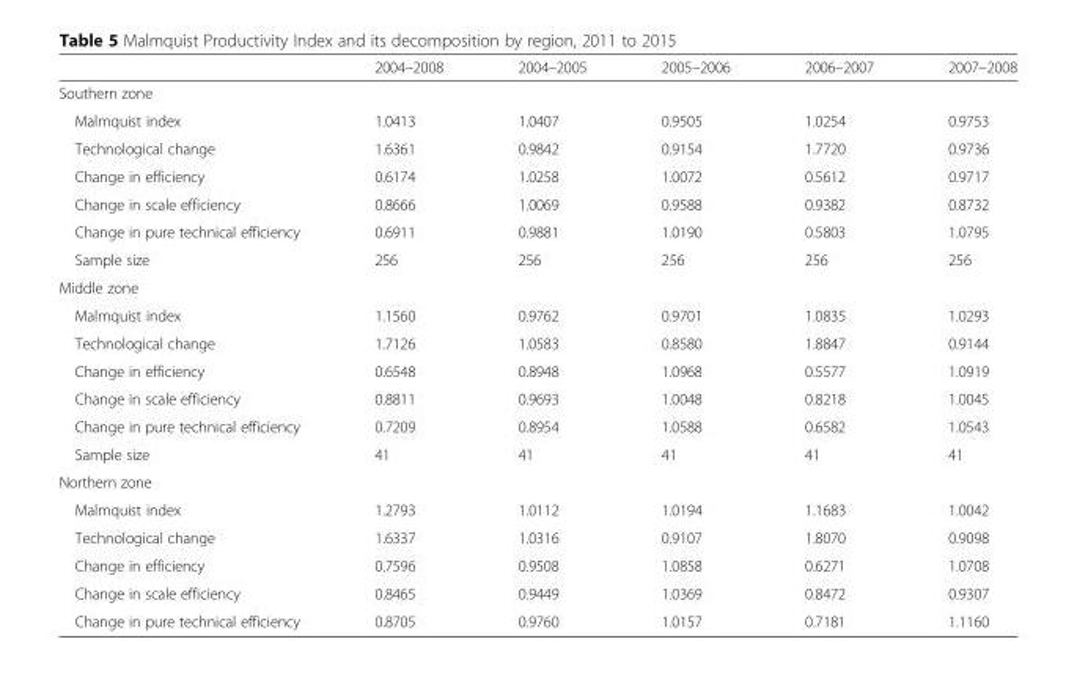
<table><thead><tr><td></td><td>2004–2008</td><td>2004–2005</td><td>2005–2006</td><td>2006–2007</td><td>2007–2008</td></tr></thead><tbody><tr><td colspan="6">Southern zone</td></tr><tr><td>Malmquist index</td><td>1.0413</td><td>1.0407</td><td>0.9505</td><td>1.0254</td><td>0.9753</td></tr><tr><td>Technological change</td><td>1.6361</td><td>0.9842</td><td>0.9154</td><td>1.7720</td><td>0.9736</td></tr><tr><td>Change in efficiency</td><td>0.6174</td><td>1.0258</td><td>1.0072</td><td>0.5612</td><td>0.9717</td></tr><tr><td>Change in scale efficiency</td><td>0.8666</td><td>1.0069</td><td>0.9588</td><td>0.9382</td><td>0.8732</td></tr><tr><td>Change in pure technical efficiency</td><td>0.6911</td><td>0.9881</td><td>1.0190</td><td>0.5803</td><td>1.0795</td></tr><tr><td>Sample size</td><td>256</td><td>256</td><td>256</td><td>256</td><td>256</td></tr><tr><td colspan="6">Middle zone</td></tr><tr><td>Malmquist index</td><td>1.1560</td><td>0.9762</td><td>0.9701</td><td>1.0835</td><td>1.0293</td></tr><tr><td>Technological change</td><td>1.7126</td><td>1.0583</td><td>0.8580</td><td>1.8847</td><td>0.9144</td></tr><tr><td>Change in efficiency</td><td>0.6548</td><td>0.8948</td><td>1.0968</td><td>0.5577</td><td>1.0919</td></tr><tr><td>Change in scale efficiency</td><td>0.8811</td><td>0.9693</td><td>1.0048</td><td>0.8218</td><td>1.0045</td></tr><tr><td>Change in pure technical efficiency</td><td>0.7209</td><td>0.8954</td><td>1.0588</td><td>0.6582</td><td>1.0543</td></tr><tr><td>Sample size</td><td>41</td><td>41</td><td>41</td><td>41</td><td>41</td></tr><tr><td colspan="6">Northern zone</td></tr><tr><td>Malmquist index</td><td>1.2793</td><td>1.0112</td><td>1.0194</td><td>1.1683</td><td>1.0042</td></tr><tr><td>Technological change</td><td>1.6337</td><td>1.0316</td><td>0.9107</td><td>1.8070</td><td>0.9098</td></tr><tr><td>Change in efficiency</td><td>0.7596</td><td>0.9508</td><td>1.0858</td><td>0.6271</td><td>1.0708</td></tr><tr><td>Change in scale efficiency</td><td>0.8465</td><td>0.9449</td><td>1.0369</td><td>0.8472</td><td>0.9307</td></tr><tr><td>Change in pure technical efficiency</td><td>0.8705</td><td>0.9760</td><td>1.0157</td><td>0.7181</td><td>1.1160</td></tr></tbody></table>